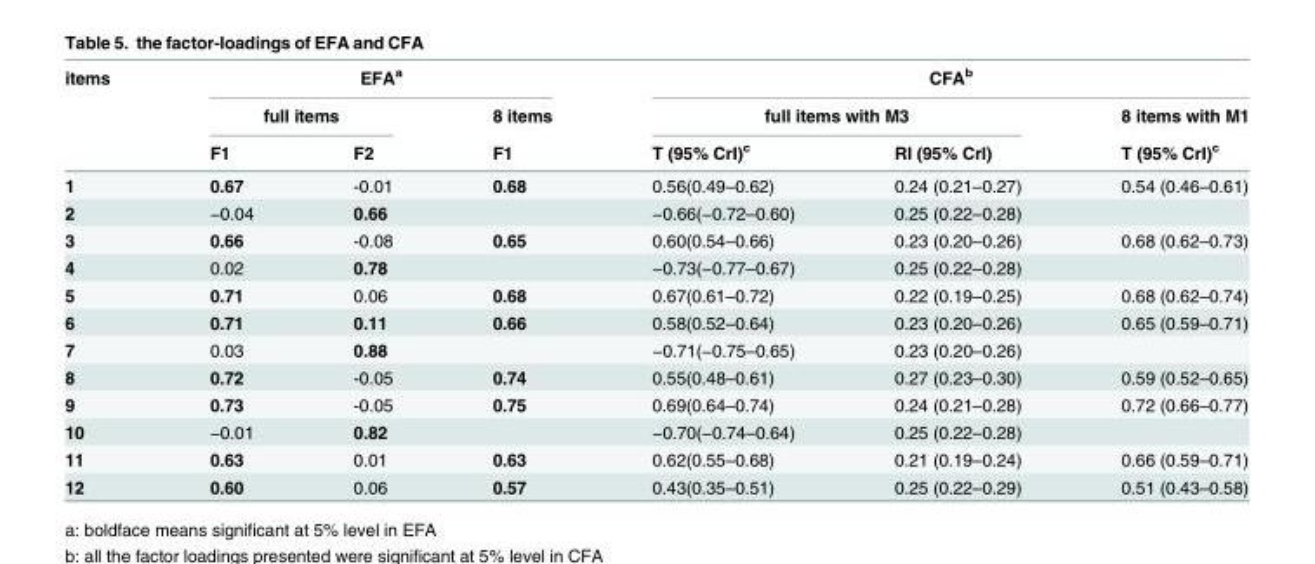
<table><thead><tr><td rowspan="3">items</td><td colspan="3">EFA<sup>a</sup></td><td colspan="3">CFA<sup>b</sup></td></tr><tr><td colspan="2">full items</td><td rowspan="2">8 items F1</td><td colspan="2">full items with M3</td><td rowspan="2">8 items with M1 T (95% CrI)<sup>c</sup></td></tr><tr><td>F1</td><td>F2</td><td>T (95% CrI)<sup>c</sup></td><td>RI (95% CrI)</td></tr></thead><tbody><tr><td>1</td><td>0.67</td><td>-0.01</td><td>0.68</td><td>0.56(0.49–0.62)</td><td>0.24 (0.21–0.27)</td><td>0.54 (0.46–0.61)</td></tr><tr><td>2</td><td>−0.04</td><td>0.66</td><td></td><td>−0.66(−0.72–0.60)</td><td>0.25 (0.22–0.28)</td><td></td></tr><tr><td>3</td><td>0.66</td><td>-0.08</td><td>0.65</td><td>0.60(0.54–0.66)</td><td>0.23 (0.20–0.26)</td><td>0.68 (0.62–0.73)</td></tr><tr><td>4</td><td>0.02</td><td>0.78</td><td></td><td>−0.73(−0.77–0.67)</td><td>0.25 (0.22–0.28)</td><td></td></tr><tr><td>5</td><td>0.71</td><td>0.06</td><td>0.68</td><td>0.67(0.61–0.72)</td><td>0.22 (0.19–0.25)</td><td>0.68 (0.62–0.74)</td></tr><tr><td>6</td><td>0.71</td><td>0.11</td><td>0.66</td><td>0.58(0.52–0.64)</td><td>0.23 (0.20–0.26)</td><td>0.65 (0.59–0.71)</td></tr><tr><td>7</td><td>0.03</td><td>0.88</td><td></td><td>−0.71(−0.75–0.65)</td><td>0.23 (0.20–0.26)</td><td></td></tr><tr><td>8</td><td>0.72</td><td>-0.05</td><td>0.74</td><td>0.55(0.48–0.61)</td><td>0.27 (0.23–0.30)</td><td>0.59 (0.52–0.65)</td></tr><tr><td>9</td><td>0.73</td><td>-0.05</td><td>0.75</td><td>0.69(0.64–0.74)</td><td>0.24 (0.21–0.28)</td><td>0.72 (0.66–0.77)</td></tr><tr><td>10</td><td>−0.01</td><td>0.82</td><td></td><td>−0.70(−0.74–0.64)</td><td>0.25 (0.22–0.28)</td><td></td></tr><tr><td>11</td><td>0.63</td><td>0.01</td><td>0.63</td><td>0.62(0.55–0.68)</td><td>0.21 (0.19–0.24)</td><td>0.66 (0.59–0.71)</td></tr><tr><td>12</td><td>0.60</td><td>0.06</td><td>0.57</td><td>0.43(0.35–0.51)</td><td>0.25 (0.22–0.29)</td><td>0.51 (0.43–0.58)</td></tr></tbody></table>